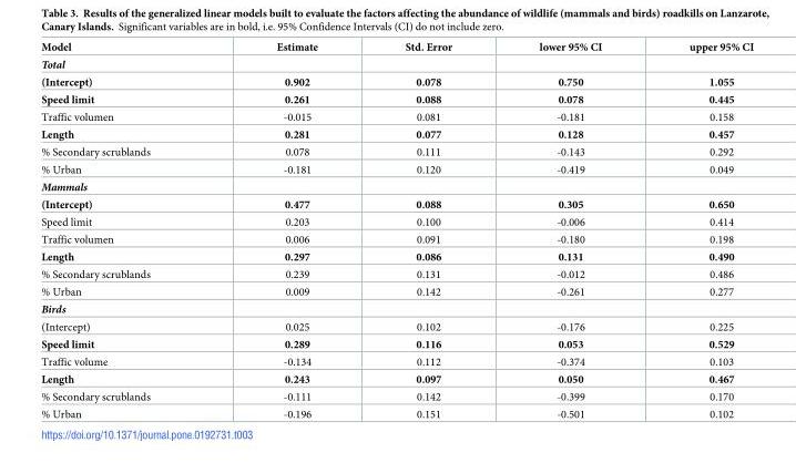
<table><thead><tr><td>Model</td><td>Estimate</td><td>Std. Error</td><td>lower 95% CI</td><td>upper 95% CI</td></tr></thead><tbody><tr><td colspan="5">Total</td></tr><tr><td>(Intercept)</td><td>0.902</td><td>0.078</td><td>0.750</td><td>1.055</td></tr><tr><td>Speed limit</td><td>0.261</td><td>0.088</td><td>0.078</td><td>0.445</td></tr><tr><td>Traffic volumen</td><td>-0.015</td><td>0.081</td><td>-0.181</td><td>0.158</td></tr><tr><td>Length</td><td>0.281</td><td>0.077</td><td>0.128</td><td>0.457</td></tr><tr><td>% Secondary scrublands</td><td>0.078</td><td>0.111</td><td>-0.143</td><td>0.292</td></tr><tr><td>% Urban</td><td>-0.181</td><td>0.120</td><td>-0.419</td><td>0.049</td></tr><tr><td colspan="5">Mammals</td></tr><tr><td>(Intercept)</td><td>0.477</td><td>0.088</td><td>0.305</td><td>0.650</td></tr><tr><td>Speed limit</td><td>0.203</td><td>0.100</td><td>-0.006</td><td>0.414</td></tr><tr><td>Traffic volumen</td><td>0.006</td><td>0.091</td><td>-0.180</td><td>0.198</td></tr><tr><td>Length</td><td>0.297</td><td>0.086</td><td>0.131</td><td>0.490</td></tr><tr><td>% Secondary scrublands</td><td>0.239</td><td>0.131</td><td>-0.012</td><td>0.486</td></tr><tr><td>% Urban</td><td>0.009</td><td>0.142</td><td>-0.261</td><td>0.277</td></tr><tr><td colspan="5">Birds</td></tr><tr><td>(Intercept)</td><td>0.025</td><td>0.102</td><td>-0.176</td><td>0.225</td></tr><tr><td>Speed limit</td><td>0.289</td><td>0.116</td><td>0.053</td><td>0.529</td></tr><tr><td>Traffic volume</td><td>-0.134</td><td>0.112</td><td>-0.374</td><td>0.103</td></tr><tr><td>Length</td><td>0.243</td><td>0.097</td><td>0.050</td><td>0.467</td></tr><tr><td>% Secondary scrublands</td><td>-0.111</td><td>0.142</td><td>-0.399</td><td>0.170</td></tr><tr><td>% Urban</td><td>-0.196</td><td>0.151</td><td>-0.501</td><td>0.102</td></tr></tbody></table>